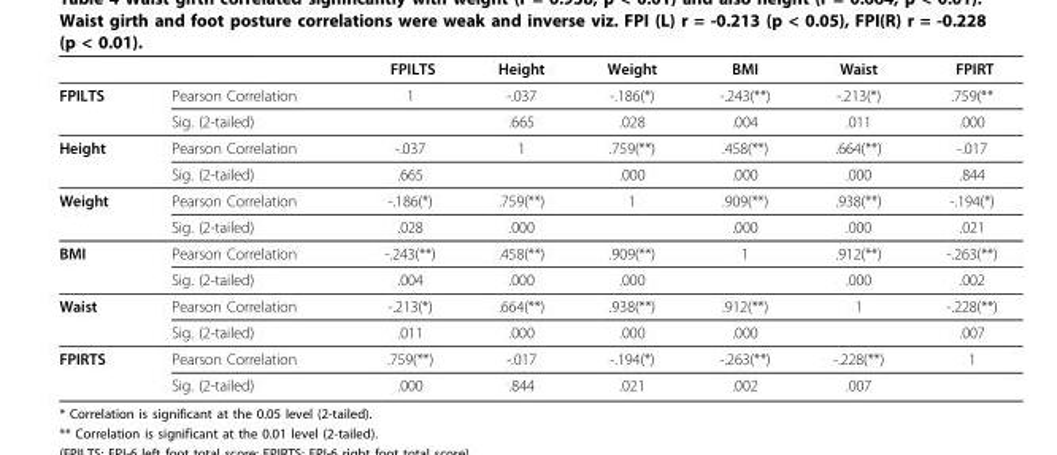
<table><thead><tr><td></td><td></td><td>FPILTS</td><td>Height</td><td>Weight</td><td>BMI</td><td>Waist</td><td>FPIRT</td></tr></thead><tbody><tr><td rowspan="2">FPILTS</td><td>Pearson Correlation</td><td>1</td><td>-.037</td><td>-.186(*)</td><td>-.243(**)</td><td>-.213(*)</td><td>.759(**</td></tr><tr><td>Sig. (2-tailed)</td><td></td><td>.665</td><td>.028</td><td>.004</td><td>.011</td><td>.000</td></tr><tr><td rowspan="2">Height</td><td>Pearson Correlation</td><td>-.037</td><td>1</td><td>.759(**)</td><td>.458(**)</td><td>.664(**)</td><td>-.017</td></tr><tr><td>Sig. (2-tailed)</td><td>.665</td><td></td><td>.000</td><td>.000</td><td>.000</td><td>.844</td></tr><tr><td rowspan="2">Weight</td><td>Pearson Correlation</td><td>-.186(*)</td><td>.759(**)</td><td>1</td><td>.909(**)</td><td>.938(**)</td><td>-.194(*)</td></tr><tr><td>Sig. (2-tailed)</td><td>.028</td><td>.000</td><td></td><td>.000</td><td>.000</td><td>.021</td></tr><tr><td rowspan="2">BMI</td><td>Pearson Correlation</td><td>-.243(**)</td><td>.458(**)</td><td>.909(**)</td><td>1</td><td>.912(**)</td><td>-.263(**)</td></tr><tr><td>Sig. (2-tailed)</td><td>.004</td><td>.000</td><td>.000</td><td></td><td>.000</td><td>.002</td></tr><tr><td rowspan="2">Waist</td><td>Pearson Correlation</td><td>-.213(*)</td><td>.664(**)</td><td>.938(**)</td><td>.912(**)</td><td>1</td><td>-.228(**)</td></tr><tr><td>Sig. (2-tailed)</td><td>.011</td><td>.000</td><td>.000</td><td>.000</td><td></td><td>.007</td></tr><tr><td rowspan="2">FPIRTS</td><td>Pearson Correlation</td><td>.759(**)</td><td>-.017</td><td>-.194(*)</td><td>-.263(**)</td><td>-.228(**)</td><td>1</td></tr><tr><td>Sig. (2-tailed)</td><td>.000</td><td>.844</td><td>.021</td><td>.002</td><td>.007</td><td></td></tr></tbody></table>